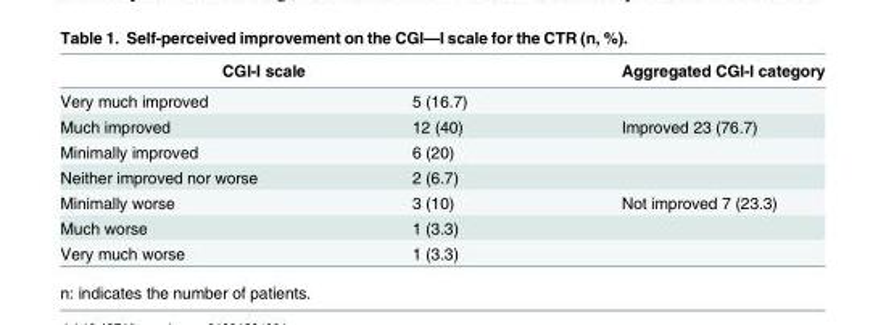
<table><thead><tr><td colspan="2">CGI-I scale</td><td rowspan="2">Aggregated CGI-I category</td></tr><tr><td>Very much improved</td><td>5 (16.7)</td></tr></thead><tbody><tr><td>Much improved</td><td>12 (40)</td><td>Improved 23 (76.7)</td></tr><tr><td>Minimally improved</td><td>6 (20)</td><td></td></tr><tr><td>Neither improved nor worse</td><td>2 (6.7)</td><td></td></tr><tr><td>Minimally worse</td><td>3 (10)</td><td>Not improved 7 (23.3)</td></tr><tr><td>Much worse</td><td>1 (3.3)</td><td></td></tr><tr><td>Very much worse</td><td>1 (3.3)</td><td></td></tr></tbody></table>